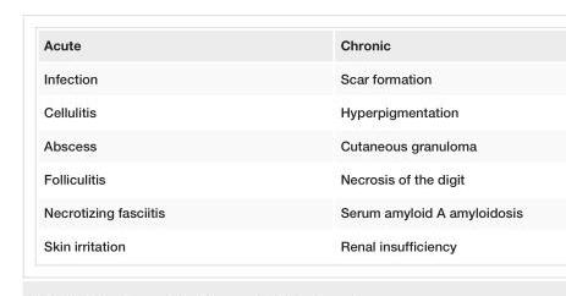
<table><tbody><tr><td>Acute</td><td>Chronic</td></tr><tr><td>Infection</td><td>Scar formation</td></tr><tr><td>Cellulitis</td><td>Hyperpigmentation</td></tr><tr><td>Abscess</td><td>Cutaneous granuloma</td></tr><tr><td>Folliculitis</td><td>Necrosis of the digit</td></tr><tr><td>Necrotizing fasciitis</td><td>Serum amyloid A amyloidosis</td></tr><tr><td>Skin irritation</td><td>Renal insufficiency</td></tr></tbody></table>